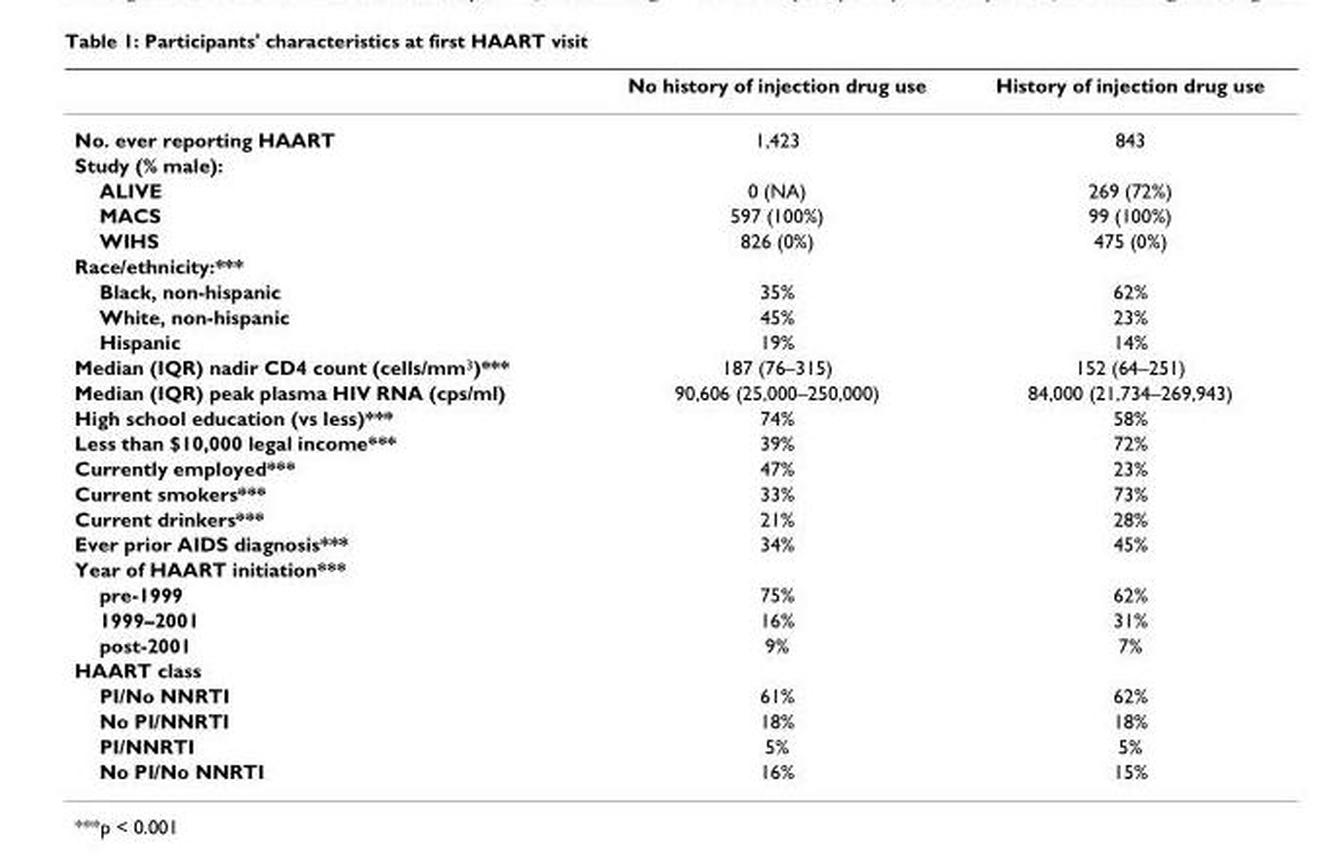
<table><thead><tr><td></td><td>No history of injection drug use</td><td>History of injection drug use</td></tr></thead><tbody><tr><td>No. ever reporting HAART</td><td>1,423</td><td>843</td></tr><tr><td colspan="3">Study (% male):</td></tr><tr><td>ALIVE</td><td>0 (NA)</td><td>269 (72%)</td></tr><tr><td>MACS</td><td>597 (100%)</td><td>99 (100%)</td></tr><tr><td>WIHS</td><td>826 (0%)</td><td>475 (0%)</td></tr><tr><td colspan="3">Race/ethnicity:***</td></tr><tr><td>Black, non-hispanic</td><td>35%</td><td>62%</td></tr><tr><td>White, non-hispanic</td><td>45%</td><td>23%</td></tr><tr><td>Hispanic</td><td>19%</td><td>14%</td></tr><tr><td>Median (IQR) nadir CD4 count (cells/mm<sup>3</sup>)***</td><td>187 (76–315)</td><td>152 (64–251)</td></tr><tr><td>Median (IQR) peak plasma HIV RNA (cps/ml)</td><td>90,606 (25,000–250,000)</td><td>84,000 (21,734–269,943)</td></tr><tr><td>High school education (vs less)***</td><td>74%</td><td>58%</td></tr><tr><td>Less than $10,000 legal income***</td><td>39%</td><td>72%</td></tr><tr><td>Currently employed***</td><td>47%</td><td>23%</td></tr><tr><td>Current smokers***</td><td>33%</td><td>73%</td></tr><tr><td>Current drinkers***</td><td>21%</td><td>28%</td></tr><tr><td>Ever prior AIDS diagnosis***</td><td>34%</td><td>45%</td></tr><tr><td colspan="3">Year of HAART initiation***</td></tr><tr><td>pre-1999</td><td>75%</td><td>62%</td></tr><tr><td>1999–2001</td><td>16%</td><td>31%</td></tr><tr><td>post-2001</td><td>9%</td><td>7%</td></tr><tr><td colspan="3">HAART class</td></tr><tr><td>PI/No NNRTI</td><td>61%</td><td>62%</td></tr><tr><td>No PI/NNRTI</td><td>18%</td><td>18%</td></tr><tr><td>PI/NNRTI</td><td>5%</td><td>5%</td></tr><tr><td>No PI/No NNRTI</td><td>16%</td><td>15%</td></tr></tbody></table>